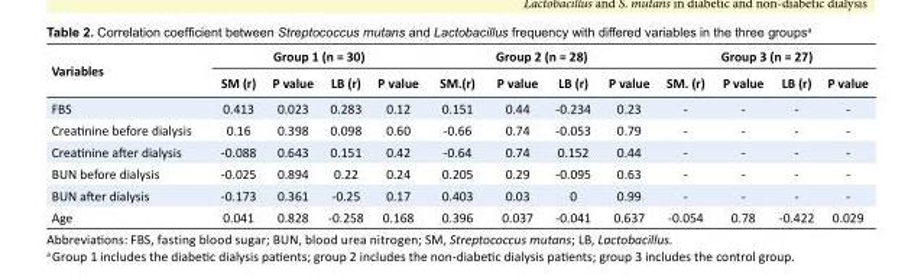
<table><tbody><tr><td rowspan="2">Variables</td><td colspan="4">Group 1 (n = 30)</td><td colspan="4">Group 2 (n = 28)</td><td colspan="4">Group 3 (n = 27)</td></tr><tr><td>SM (r)</td><td>P value</td><td>LB (r)</td><td>P value</td><td>SM.(r)</td><td>P value</td><td>LB (r)</td><td>P value</td><td>SM. (r)</td><td>P value</td><td>LB (r)</td><td>P value</td></tr><tr><td>FBS</td><td>0.413</td><td>0.023</td><td>0.283</td><td>0.12</td><td>0.151</td><td>0.44</td><td>-0.234</td><td>0.23</td><td>-</td><td>-</td><td>-</td><td>-</td></tr><tr><td>Creatinine before dialysis</td><td>0.16</td><td>0.398</td><td>0.098</td><td>0.60</td><td>-0.66</td><td>0.74</td><td>-0.053</td><td>0.79</td><td>-</td><td>-</td><td>-</td><td>-</td></tr><tr><td>Creatinine after dialysis</td><td>-0.088</td><td>0.643</td><td>0.151</td><td>0.42</td><td>-0.64</td><td>0.74</td><td>0.152</td><td>0.44</td><td>-</td><td>-</td><td>-</td><td>-</td></tr><tr><td>BUN before dialysis</td><td>-0.025</td><td>0.894</td><td>0.22</td><td>0.24</td><td>0.205</td><td>0.29</td><td>-0.095</td><td>0.63</td><td>-</td><td>-</td><td>-</td><td>-</td></tr><tr><td>BUN after dialysis</td><td>-0.173</td><td>0.361</td><td>-0.25</td><td>0.17</td><td>0.403</td><td>0.03</td><td>0</td><td>0.99</td><td>-</td><td>-</td><td>-</td><td>-</td></tr><tr><td>Age</td><td>0.041</td><td>0.828</td><td>-0.258</td><td>0.168</td><td>0.396</td><td>0.037</td><td>-0.041</td><td>0.637</td><td>-0.054</td><td>0.78</td><td>-0.422</td><td>0.029</td></tr></tbody></table>